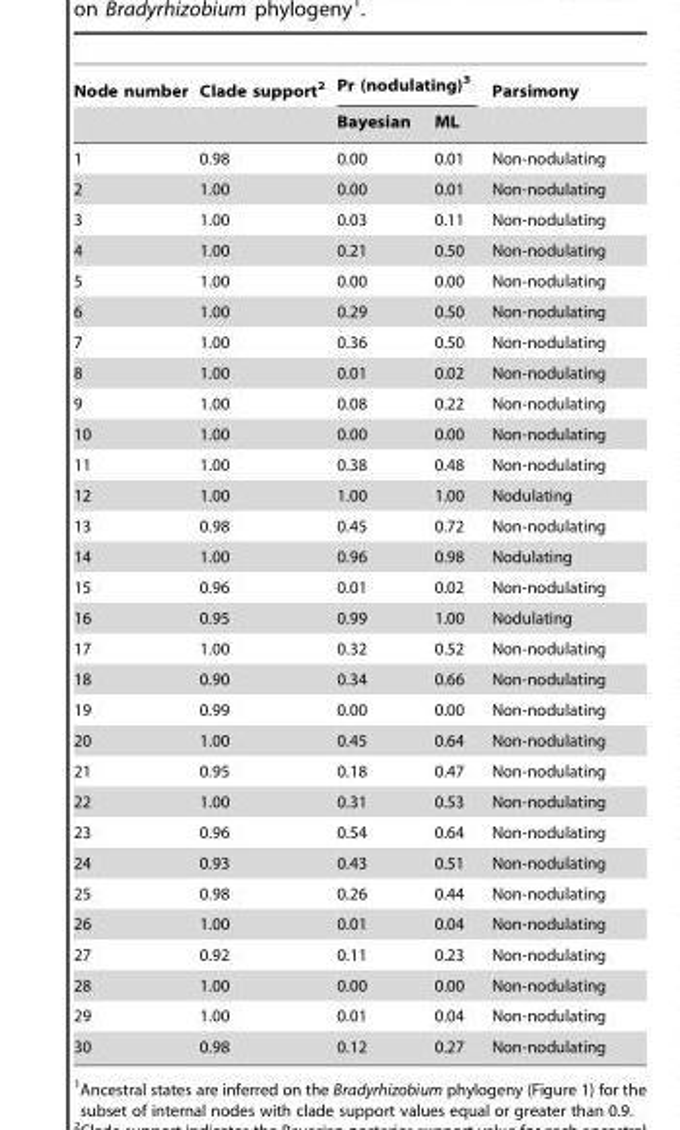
<table><thead><tr><td rowspan="2">Node number</td><td rowspan="2">Clade support<sup>2</sup></td><td colspan="2">Pr (nodulating)<sup>3</sup></td><td rowspan="2">Parsimony</td></tr><tr><td>Bayesian</td><td>ML</td></tr></thead><tbody><tr><td>1</td><td>0.98</td><td>0.00</td><td>0.01</td><td>Non-nodulating</td></tr><tr><td>2</td><td>1.00</td><td>0.00</td><td>0.01</td><td>Non-nodulating</td></tr><tr><td>3</td><td>1.00</td><td>0.03</td><td>0.11</td><td>Non-nodulating</td></tr><tr><td>4</td><td>1.00</td><td>0.21</td><td>0.50</td><td>Non-nodulating</td></tr><tr><td>5</td><td>1.00</td><td>0.00</td><td>0.00</td><td>Non-nodulating</td></tr><tr><td>6</td><td>1.00</td><td>0.29</td><td>0.50</td><td>Non-nodulating</td></tr><tr><td>7</td><td>1.00</td><td>0.36</td><td>0.50</td><td>Non-nodulating</td></tr><tr><td>8</td><td>1.00</td><td>0.01</td><td>0.02</td><td>Non-nodulating</td></tr><tr><td>9</td><td>1.00</td><td>0.08</td><td>0.22</td><td>Non-nodulating</td></tr><tr><td>10</td><td>1.00</td><td>0.00</td><td>0.00</td><td>Non-nodulating</td></tr><tr><td>11</td><td>1.00</td><td>0.38</td><td>0.48</td><td>Non-nodulating</td></tr><tr><td>12</td><td>1.00</td><td>1.00</td><td>1.00</td><td>Nodulating</td></tr><tr><td>13</td><td>0.98</td><td>0.45</td><td>0.72</td><td>Non-nodulating</td></tr><tr><td>14</td><td>1.00</td><td>0.96</td><td>0.98</td><td>Nodulating</td></tr><tr><td>15</td><td>0.96</td><td>0.01</td><td>0.02</td><td>Non-nodulating</td></tr><tr><td>16</td><td>0.95</td><td>0.99</td><td>1.00</td><td>Nodulating</td></tr><tr><td>17</td><td>1.00</td><td>0.32</td><td>0.52</td><td>Non-nodulating</td></tr><tr><td>18</td><td>0.90</td><td>0.34</td><td>0.66</td><td>Non-nodulating</td></tr><tr><td>19</td><td>0.99</td><td>0.00</td><td>0.00</td><td>Non-nodulating</td></tr><tr><td>20</td><td>1.00</td><td>0.45</td><td>0.64</td><td>Non-nodulating</td></tr><tr><td>21</td><td>0.95</td><td>0.18</td><td>0.47</td><td>Non-nodulating</td></tr><tr><td>22</td><td>1.00</td><td>0.31</td><td>0.53</td><td>Non-nodulating</td></tr><tr><td>23</td><td>0.96</td><td>0.54</td><td>0.64</td><td>Non-nodulating</td></tr><tr><td>24</td><td>0.93</td><td>0.43</td><td>0.51</td><td>Non-nodulating</td></tr><tr><td>25</td><td>0.98</td><td>0.26</td><td>0.44</td><td>Non-nodulating</td></tr><tr><td>26</td><td>1.00</td><td>0.01</td><td>0.04</td><td>Non-nodulating</td></tr><tr><td>27</td><td>0.92</td><td>0.11</td><td>0.23</td><td>Non-nodulating</td></tr><tr><td>28</td><td>1.00</td><td>0.00</td><td>0.00</td><td>Non-nodulating</td></tr><tr><td>29</td><td>1.00</td><td>0.01</td><td>0.04</td><td>Non-nodulating</td></tr><tr><td>30</td><td>0.98</td><td>0.12</td><td>0.27</td><td>Non-nodulating</td></tr></tbody></table>